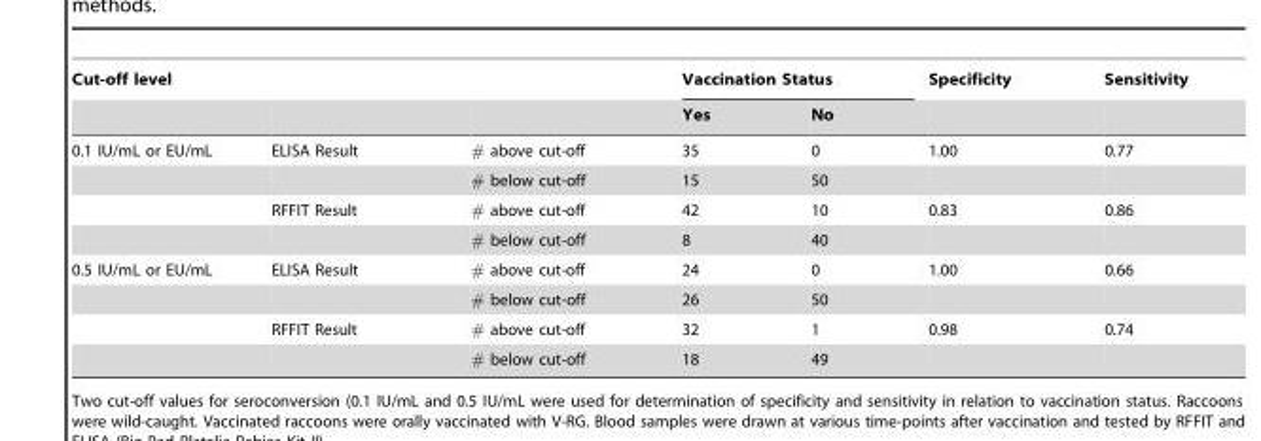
<table><thead><tr><td rowspan="2">Cut-off level</td><td rowspan="2"></td><td rowspan="2"></td><td colspan="2">Vaccination Status</td><td rowspan="2">Specificity</td><td rowspan="2">Sensitivity</td></tr><tr><td>Yes</td><td>No</td></tr></thead><tbody><tr><td rowspan="4">0.1 IU/mL or EU/mL</td><td>ELISA Result</td><td># above cut-off</td><td>35</td><td>0</td><td>1.00</td><td>0.77</td></tr><tr><td></td><td># below cut-off</td><td>15</td><td>50</td><td></td><td></td></tr><tr><td>RFFIT Result</td><td># above cut-off</td><td>42</td><td>10</td><td>0.83</td><td>0.86</td></tr><tr><td></td><td># below cut-off</td><td>8</td><td>40</td><td></td><td></td></tr><tr><td rowspan="4">0.5 IU/mL or EU/mL</td><td>ELISA Result</td><td># above cut-off</td><td>24</td><td>0</td><td>1.00</td><td>0.66</td></tr><tr><td></td><td># below cut-off</td><td>26</td><td>50</td><td></td><td></td></tr><tr><td>RFFIT Result</td><td># above cut-off</td><td>32</td><td>1</td><td>0.98</td><td>0.74</td></tr><tr><td></td><td># below cut-off</td><td>18</td><td>49</td><td></td><td></td></tr></tbody></table>